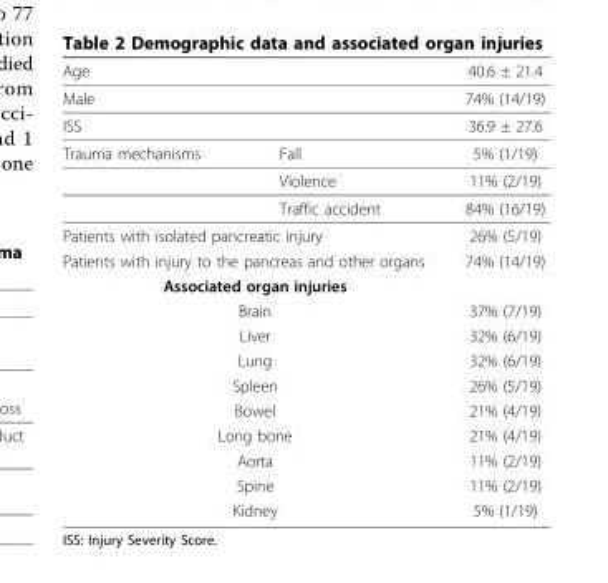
<table><thead><tr><td rowspan="3" colspan="2">Age Male ISS</td><td rowspan="4">40.6 ± 21.4 74% (14/19) 36.9 ± 27.6 5% (1/19)</td></tr><tr></tr><tr></tr><tr><td>Trauma mechanisms</td><td>Fall</td></tr></thead><tbody><tr><td></td><td>Violence</td><td>11% (2/19)</td></tr><tr><td></td><td>Traffic accident</td><td>84% (16/19)</td></tr><tr><td colspan="2">Patients with isolated pancreatic injury</td><td>26% (5/19)</td></tr><tr><td colspan="2">Patients with injury to the pancreas and other organs</td><td>74% (14/19)</td></tr><tr><td colspan="3">Associated organ injuries</td></tr><tr><td colspan="2">Brain</td><td>37% (7/19)</td></tr><tr><td colspan="2">Liver</td><td>32% (6/19)</td></tr><tr><td colspan="2">Lung</td><td>32% (6/19)</td></tr><tr><td colspan="2">Spleen</td><td>26% (5/19)</td></tr><tr><td colspan="2">Bowel</td><td>21% (4/19)</td></tr><tr><td colspan="2">Long bone</td><td>21% (4/19)</td></tr><tr><td colspan="2">Aorta</td><td>11% (2/19)</td></tr><tr><td colspan="2">Spine</td><td>11% (2/19)</td></tr><tr><td colspan="2">Kidney</td><td>5% (1/19)</td></tr></tbody></table>